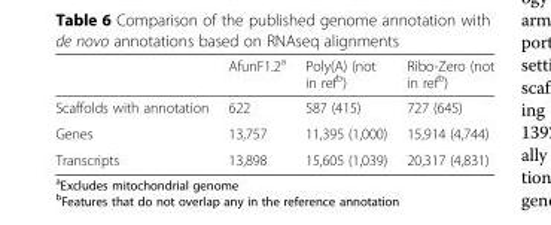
<table><thead><tr><td></td><td>AfunF1.2<sup>a</sup></td><td>Poly(A) (not in ref<sup>b</sup>)</td><td>Ribo-Zero (not in ref<sup>b</sup>)</td></tr></thead><tbody><tr><td>Scaffolds with annotation</td><td>622</td><td>587 (415)</td><td>727 (645)</td></tr><tr><td>Genes</td><td>13,757</td><td>11,395 (1,000)</td><td>15,914 (4,744)</td></tr><tr><td>Transcripts</td><td>13,898</td><td>15,605 (1,039)</td><td>20,317 (4,831)</td></tr></tbody></table>